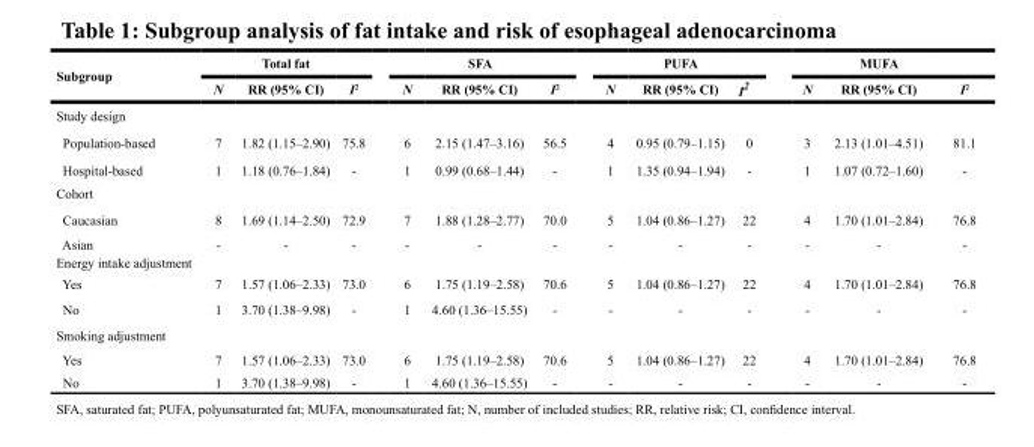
<table><thead><tr><td rowspan="2">Subgroup</td><td colspan="3">Total fat</td><td colspan="3">SFA</td><td colspan="3">PUFA</td><td colspan="3">MUFA</td></tr><tr><td>N</td><td>RR (95% CI)</td><td>I<sup>2</sup></td><td>N</td><td>RR (95% CI)</td><td>I<sup>2</sup></td><td>N</td><td>RR (95% CI)</td><td>I<sup>2</sup></td><td>N</td><td>RR (95% CI)</td><td>I<sup>2</sup></td></tr></thead><tbody><tr><td colspan="13">Study design</td></tr><tr><td>Population-based</td><td>7</td><td>1.82 (1.15–2.90)</td><td>75.8</td><td>6</td><td>2.15 (1.47–3.16)</td><td>56.5</td><td>4</td><td>0.95 (0.79–1.15)</td><td>0</td><td>3</td><td>2.13 (1.01–4.51)</td><td>81.1</td></tr><tr><td>Hospital-based</td><td>1</td><td>1.18 (0.76–1.84)</td><td>-</td><td>1</td><td>0.99 (0.68–1.44)</td><td>-</td><td>1</td><td>1.35 (0.94–1.94)</td><td>-</td><td>1</td><td>1.07 (0.72–1.60)</td><td>-</td></tr><tr><td colspan="13">Cohort</td></tr><tr><td>Caucasian</td><td>8</td><td>1.69 (1.14–2.50)</td><td>72.9</td><td>7</td><td>1.88 (1.28–2.77)</td><td>70.0</td><td>5</td><td>1.04 (0.86–1.27)</td><td>22</td><td>4</td><td>1.70 (1.01–2.84)</td><td>76.8</td></tr><tr><td>Asian</td><td>-</td><td>-</td><td>-</td><td>-</td><td>-</td><td>-</td><td>-</td><td>-</td><td>-</td><td>-</td><td>-</td><td>-</td></tr><tr><td colspan="13">Energy intake adjustment</td></tr><tr><td>Yes</td><td>7</td><td>1.57 (1.06–2.33)</td><td>73.0</td><td>6</td><td>1.75 (1.19–2.58)</td><td>70.6</td><td>5</td><td>1.04 (0.86–1.27)</td><td>22</td><td>4</td><td>1.70 (1.01–2.84)</td><td>76.8</td></tr><tr><td>No</td><td>1</td><td>3.70 (1.38–9.98)</td><td>-</td><td>1</td><td>4.60 (1.36–15.55)</td><td>-</td><td>-</td><td>-</td><td>-</td><td>-</td><td>-</td><td>-</td></tr><tr><td colspan="13">Smoking adjustment</td></tr><tr><td>Yes</td><td>7</td><td>1.57 (1.06–2.33)</td><td>73.0</td><td>6</td><td>1.75 (1.19–2.58)</td><td>70.6</td><td>5</td><td>1.04 (0.86–1.27)</td><td>22</td><td>4</td><td>1.70 (1.01–2.84)</td><td>76.8</td></tr><tr><td>No</td><td>1</td><td>3.70 (1.38–9.98)</td><td>-</td><td>1</td><td>4.60 (1.36–15.55)</td><td>-</td><td>-</td><td>-</td><td>-</td><td>-</td><td>-</td><td>-</td></tr></tbody></table>